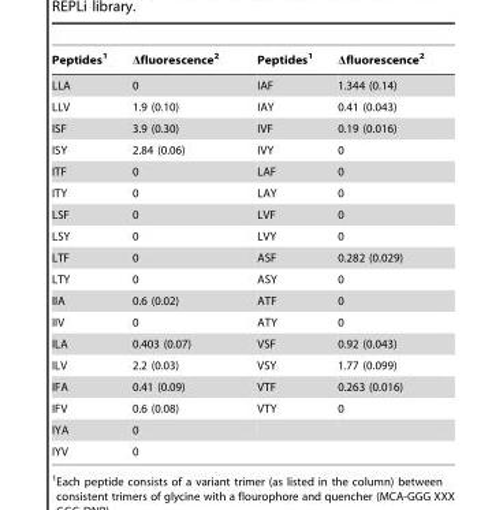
<table><thead><tr><td>Peptides<sup>1</sup></td><td>Δfluorescence<sup>2</sup></td><td>Peptides<sup>1</sup></td><td>Δfluorescence<sup>2</sup></td></tr></thead><tbody><tr><td>LLA</td><td>0</td><td>IAF</td><td>1.344 (0.14)</td></tr><tr><td>LLV</td><td>1.9 (0.10)</td><td>IAY</td><td>0.41 (0.043)</td></tr><tr><td>ISF</td><td>3.9 (0.30)</td><td>IVF</td><td>0.19 (0.016)</td></tr><tr><td>ISY</td><td>2.84 (0.06)</td><td>IVY</td><td>0</td></tr><tr><td>ITF</td><td>0</td><td>LAF</td><td>0</td></tr><tr><td>ITY</td><td>0</td><td>LAY</td><td>0</td></tr><tr><td>LSF</td><td>0</td><td>LVF</td><td>0</td></tr><tr><td>LSY</td><td>0</td><td>LVY</td><td>0</td></tr><tr><td>LTF</td><td>0</td><td>ASF</td><td>0.282 (0.029)</td></tr><tr><td>LTY</td><td>0</td><td>ASY</td><td>0</td></tr><tr><td>IIA</td><td>0.6 (0.02)</td><td>ATF</td><td>0</td></tr><tr><td>IIV</td><td>0</td><td>ATY</td><td>0</td></tr><tr><td>ILA</td><td>0.403 (0.07)</td><td>VSF</td><td>0.92 (0.043)</td></tr><tr><td>ILV</td><td>2.2 (0.03)</td><td>VSY</td><td>1.77 (0.099)</td></tr><tr><td>IFA</td><td>0.41 (0.09)</td><td>VTF</td><td>0.263 (0.016)</td></tr><tr><td>IFV</td><td>0.6 (0.08)</td><td>VTY</td><td>0</td></tr><tr><td>IYA</td><td>0</td><td></td><td></td></tr><tr><td>IYV</td><td>0</td><td></td><td></td></tr></tbody></table>